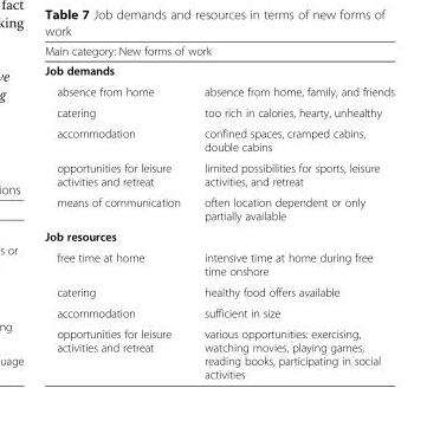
<table><thead><tr><td rowspan="2" colspan="2">Main category: New forms of work Job demands</td></tr><tr></tr><tr><td>absence from home</td><td>absence from home, family, and friends</td></tr></thead><tbody><tr><td>catering</td><td>too rich in calories, hearty, unhealthy</td></tr><tr><td>accommodation</td><td>confined spaces, cramped cabins, double cabins</td></tr><tr><td>opportunities for leisure activities and retreat</td><td>limited possibilities for sports, leisure activities, and retreat</td></tr><tr><td>means of communication</td><td>often location dependent or only partially available</td></tr><tr><td colspan="2">Job resources</td></tr><tr><td>free time at home</td><td>intensive time at home during free time onshore</td></tr><tr><td>catering</td><td>healthy food offers available</td></tr><tr><td>accommodation</td><td>sufficient in size</td></tr><tr><td>opportunities for leisure activities and retreat</td><td>various opportunities: exercising, watching movies, playing games, reading books, participating in social activities</td></tr></tbody></table>